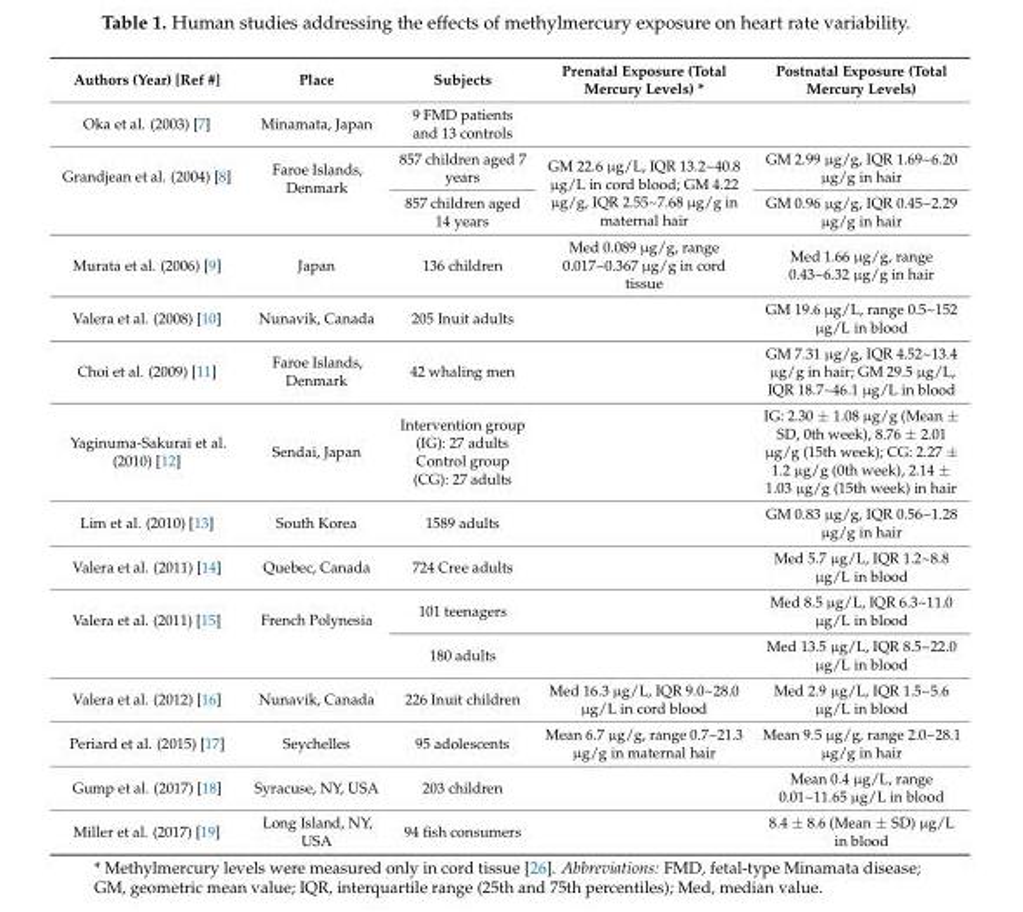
<table><thead><tr><td>Authors (Year) [Ref #]</td><td>Place</td><td>Subjects</td><td>Prenatal Exposure (Total Mercury Levels) *</td><td>Postnatal Exposure (Total Mercury Levels)</td></tr></thead><tbody><tr><td>Oka et al. (2003) [7]</td><td>Minamata, Japan</td><td>9 FMD patients and 13 controls</td><td></td><td></td></tr><tr><td rowspan="2">Grandjean et al. (2004) [8]</td><td rowspan="2">Faroe Islands, Denmark</td><td>857 children aged 7 years</td><td rowspan="2">GM 22.6 µg/L, IQR 13.2~40.8 µg/L in cord blood; GM 4.22 µg/g, IQR 2.55~7.68 µg/g in maternal hair</td><td>GM 2.99 µg/g, IQR 1.69~6.20 µg/g in hair</td></tr><tr><td>857 children aged 14 years</td><td>GM 0.96 µg/g, IQR 0.45~2.29 µg/g in hair</td></tr><tr><td>Murata et al. (2006) [9]</td><td>Japan</td><td>136 children</td><td>Med 0.089 µg/g, range 0.017~0.367 µg/g in cord tissue</td><td>Med 1.66 µg/g, range 0.43~6.32 µg/g in hair</td></tr><tr><td>Valera et al. (2008) [10]</td><td>Nunavik, Canada</td><td>205 Inuit adults</td><td></td><td>GM 19.6 µg/L, range 0.5~152 µg/L in blood</td></tr><tr><td>Choi et al. (2009) [11]</td><td>Faroe Islands, Denmark</td><td>42 whaling men</td><td></td><td>GM 7.31 µg/g, IQR 4.52~13.4 µg/g in hair; GM 29.5 µg/L, IQR 18.7~46.1 µg/L in blood</td></tr><tr><td>Yaginuma-Sakurai et al. (2010) [12]</td><td>Sendai, Japan</td><td>Intervention group (IG): 27 adults Control group (CG): 27 adults</td><td></td><td>IG: 2.30 ± 1.08 µg/g (Mean ± SD, 0th week), 8.76 ± 2.01 µg/g (15th week); CG: 2.27 ± 1.2 µg/g (0th week), 2.14 ± 1.03 µg/g (15th week) in hair</td></tr><tr><td>Lim et al. (2010) [13]</td><td>South Korea</td><td>1589 adults</td><td></td><td>GM 0.83 µg/g, IQR 0.56~1.28 µg/g in hair</td></tr><tr><td>Valera et al. (2011) [14]</td><td>Quebec, Canada</td><td>724 Cree adults</td><td></td><td>Med 5.7 µg/L, IQR 1.2~8.8 µg/L in blood</td></tr><tr><td rowspan="2">Valera et al. (2011) [15]</td><td rowspan="2">French Polynesia</td><td>101 teenagers</td><td></td><td>Med 8.5 µg/L, IQR 6.3~11.0 µg/L in blood</td></tr><tr><td>180 adults</td><td></td><td>Med 13.5 µg/L, IQR 8.5~22.0 µg/L in blood</td></tr><tr><td>Valera et al. (2012) [16]</td><td>Nunavik, Canada</td><td>226 Inuit children</td><td>Med 16.3 µg/L, IQR 9.0~28.0 µg/L in cord blood</td><td>Med 2.9 µg/L, IQR 1.5~5.6 µg/L in blood</td></tr><tr><td>Periard et al. (2015) [17]</td><td>Seychelles</td><td>95 adolescents</td><td>Mean 6.7 µg/g, range 0.7~21.3 µg/g in maternal hair</td><td>Mean 9.5 µg/g, range 2.0~28.1 µg/g in hair</td></tr><tr><td>Gump et al. (2017) [18]</td><td>Syracuse, NY, USA</td><td>203 children</td><td></td><td>Mean 0.4 µg/L, range 0.01~11.65 µg/L in blood</td></tr><tr><td>Miller et al. (2017) [19]</td><td>Long Island, NY, USA</td><td>94 fish consumers</td><td></td><td>8.4 ± 8.6 (Mean ± SD) µg/L in blood</td></tr></tbody></table>